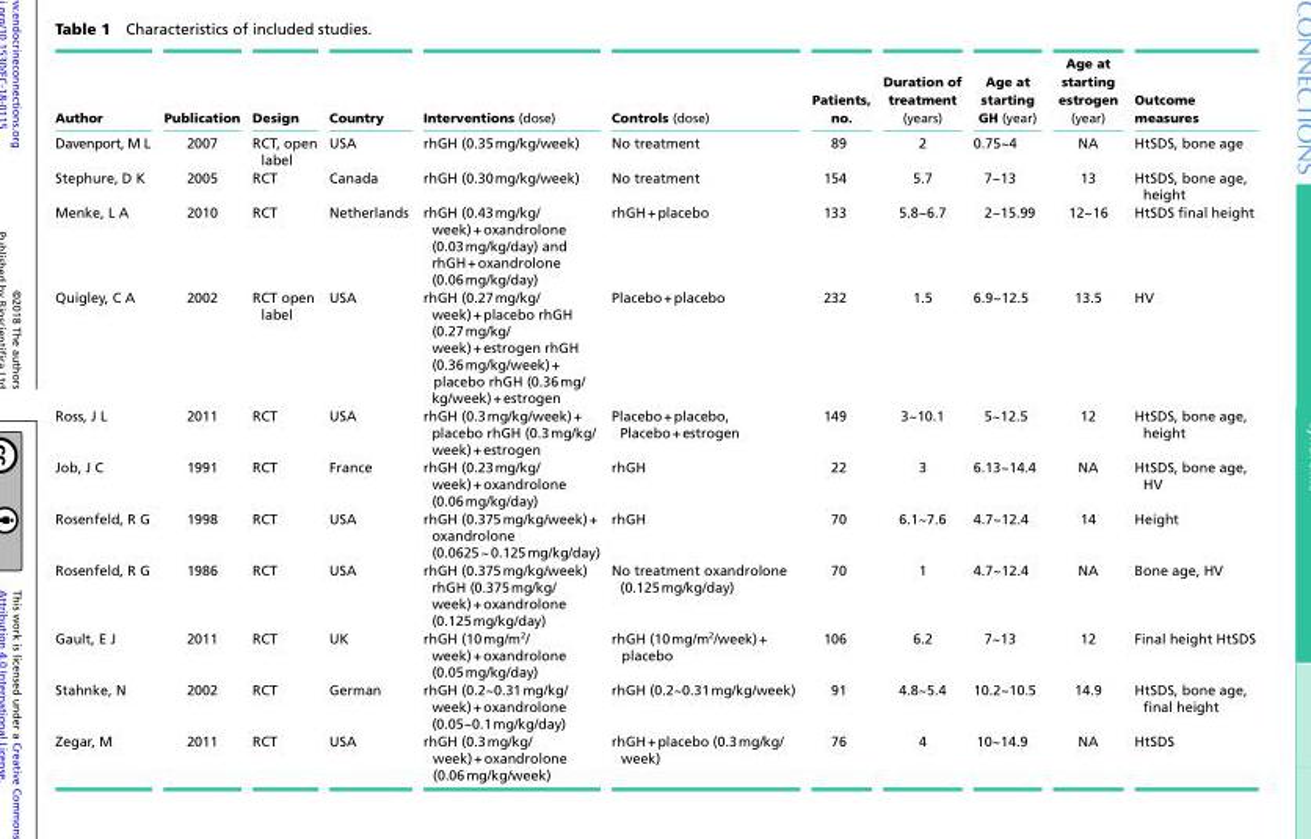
<table><thead><tr><td>Author</td><td>Publication</td><td>Design</td><td>Country</td><td>Interventions (dose)</td><td>Controls (dose)</td><td>Patients, no.</td><td>Duration of treatment (years)</td><td>Age at starting GH (year)</td><td>Age at starting estrogen (year)</td><td>Outcome measures</td></tr></thead><tbody><tr><td>Davenport, M L</td><td>2007</td><td>RCT, open label</td><td>USA</td><td>rhGH (0.35 mg/kg/week)</td><td>No treatment</td><td>89</td><td>2</td><td>0.75~4</td><td>NA</td><td>HtSDS, bone age</td></tr><tr><td>Stephure, D K</td><td>2005</td><td>RCT</td><td>Canada</td><td>rhGH (0.30 mg/kg/week)</td><td>No treatment</td><td>154</td><td>5.7</td><td>7~13</td><td>13</td><td>HtSDS, bone age, height</td></tr><tr><td>Menke, L A</td><td>2010</td><td>RCT</td><td>Netherlands</td><td>rhGH (0.43 mg/kg/ week) + oxandrolone (0.03 mg/kg/day) and rhGH + oxandrolone (0.06 mg/kg/day)</td><td>rhGH + placebo</td><td>133</td><td>5.8~6.7</td><td>2~15.99</td><td>12~16</td><td>HtSDS final height</td></tr><tr><td>Quigley, C A</td><td>2002</td><td>RCT open label</td><td>USA</td><td>rhGH (0.27 mg/kg/ week) + placebo rhGH (0.27 mg/kg/ week) + estrogen rhGH (0.36 mg/kg/week) + placebo rhGH (0.36 mg/ kg/week) + estrogen</td><td>Placebo + placebo</td><td>232</td><td>1.5</td><td>6.9~12.5</td><td>13.5</td><td>HV</td></tr><tr><td>Ross, J L</td><td>2011</td><td>RCT</td><td>USA</td><td>rhGH (0.3 mg/kg/week) + placebo rhGH (0.3 mg/kg/ week) + estrogen</td><td>Placebo + placebo, Placebo + estrogen</td><td>149</td><td>3~10.1</td><td>5~12.5</td><td>12</td><td>HtSDS, bone age, height</td></tr><tr><td>Job, J C</td><td>1991</td><td>RCT</td><td>France</td><td>rhGH (0.23 mg/kg/ week) + oxandrolone (0.06 mg/kg/day)</td><td>rhGH</td><td>22</td><td>3</td><td>6.13~14.4</td><td>NA</td><td>HtSDS, bone age, HV</td></tr><tr><td>Rosenfeld, R G</td><td>1998</td><td>RCT</td><td>USA</td><td>rhGH (0.375 mg/kg/week) + oxandrolone (0.0625 ~ 0.125 mg/kg/day)</td><td>rhGH</td><td>70</td><td>6.1~7.6</td><td>4.7~12.4</td><td>14</td><td>Height</td></tr><tr><td>Rosenfeld, R G</td><td>1986</td><td>RCT</td><td>USA</td><td>rhGH (0.375 mg/kg/week) rhGH (0.375 mg/kg/ week) + oxandrolone (0.125 mg/kg/day)</td><td>No treatment oxandrolone (0.125 mg/kg/day)</td><td>70</td><td>1</td><td>4.7~12.4</td><td>NA</td><td>Bone age, HV</td></tr><tr><td>Gault, E J</td><td>2011</td><td>RCT</td><td>UK</td><td>rhGH (10 mg/m<sup>2</sup>/ week) + oxandrolone (0.05 mg/kg/day)</td><td>rhGH (10 mg/m<sup>2</sup>/week) + placebo</td><td>106</td><td>6.2</td><td>7~13</td><td>12</td><td>Final height HtSDS</td></tr><tr><td>Stahnke, N</td><td>2002</td><td>RCT</td><td>German</td><td>rhGH (0.2~0.31 mg/kg/ week) + oxandrolone (0.05~0.1 mg/kg/day)</td><td>rhGH (0.2~0.31 mg/kg/week)</td><td>91</td><td>4.8~5.4</td><td>10.2~10.5</td><td>14.9</td><td>HtSDS, bone age, final height</td></tr><tr><td>Zegar, M</td><td>2011</td><td>RCT</td><td>USA</td><td>rhGH (0.3 mg/kg/ week) + oxandrolone (0.06 mg/kg/week)</td><td>rhGH + placebo (0.3 mg/kg/ week)</td><td>76</td><td>4</td><td>10~14.9</td><td>NA</td><td>HtSDS</td></tr></tbody></table>